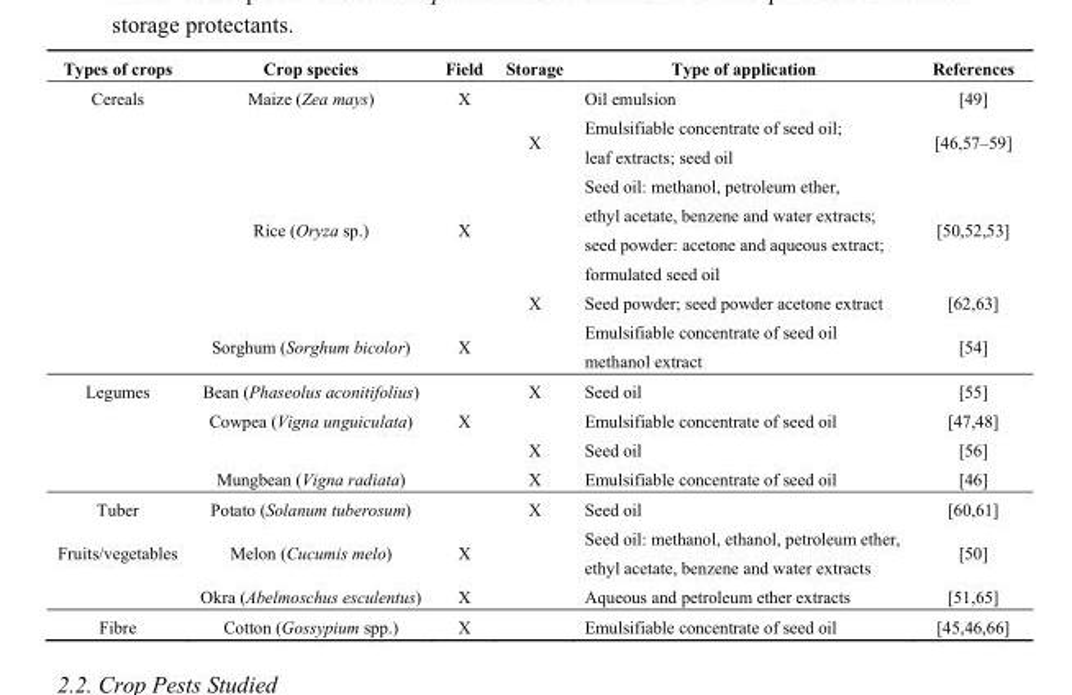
<table><thead><tr><td>Types of crops</td><td>Crop species</td><td>Field</td><td>Storage</td><td>Type of application</td><td>References</td></tr></thead><tbody><tr><td rowspan="5">Cereals</td><td>Maize (Zea mays)</td><td>X</td><td></td><td>Oil emulsion</td><td>[49]</td></tr><tr><td></td><td></td><td>X</td><td>Emulsifiable concentrate of seed oil; leaf extracts; seed oil</td><td>[46,57–59]</td></tr><tr><td>Rice (Oryza sp.)</td><td>X</td><td></td><td>Seed oil: methanol, petroleum ether, ethyl acetate, benzene and water extracts; seed powder: acetone and aqueous extract; formulated seed oil</td><td>[50,52,53]</td></tr><tr><td></td><td></td><td>X</td><td>Seed powder; seed powder acetone extract</td><td>[62,63]</td></tr><tr><td>Sorghum (Sorghum bicolor)</td><td>X</td><td></td><td>Emulsifiable concentrate of seed oil methanol extract</td><td>[54]</td></tr><tr><td rowspan="4">Legumes</td><td>Bean (Phaseolus aconitifolius)</td><td></td><td>X</td><td>Seed oil</td><td>[55]</td></tr><tr><td>Cowpea (Vigna unguiculata)</td><td>X</td><td></td><td>Emulsifiable concentrate of seed oil</td><td>[47,48]</td></tr><tr><td></td><td></td><td>X</td><td>Seed oil</td><td>[56]</td></tr><tr><td>Mungbean (Vigna radiata)</td><td></td><td>X</td><td>Emulsifiable concentrate of seed oil</td><td>[46]</td></tr><tr><td>Tuber</td><td>Potato (Solanum tuberosum)</td><td></td><td>X</td><td>Seed oil</td><td>[60,61]</td></tr><tr><td rowspan="2">Fruits/vegetables</td><td>Melon (Cucumis melo)</td><td>X</td><td></td><td>Seed oil: methanol, ethanol, petroleum ether, ethyl acetate, benzene and water extracts</td><td>[50]</td></tr><tr><td>Okra (Abelmoschus esculentus)</td><td>X</td><td></td><td>Aqueous and petroleum ether extracts</td><td>[51,65]</td></tr><tr><td>Fibre</td><td>Cotton (Gossypium spp.)</td><td>X</td><td></td><td>Emulsifiable concentrate of seed oil</td><td>[45,46,66]</td></tr></tbody></table>